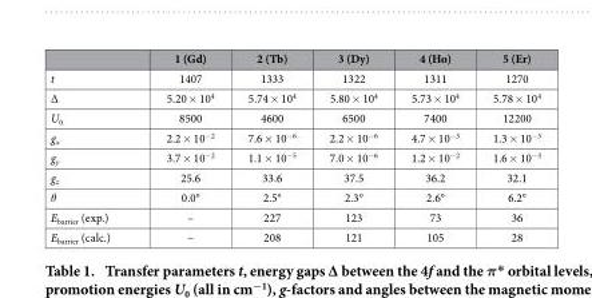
<table><thead><tr><td></td><td>1 (Gd)</td><td>2 (Tb)</td><td>3 (Dy)</td><td>4 (Ho)</td><td>5 (Er)</td></tr></thead><tbody><tr><td>t</td><td>1407</td><td>1333</td><td>1322</td><td>1311</td><td>1270</td></tr><tr><td>Δ</td><td>5.20 × 10<sup>4</sup></td><td>5.74 × 10<sup>4</sup></td><td>5.80 × 10<sup>4</sup></td><td>5.73 × 10<sup>4</sup></td><td>5.78 × 10<sup>4</sup></td></tr><tr><td>U<sub>0</sub></td><td>8500</td><td>4600</td><td>6500</td><td>7400</td><td>12200</td></tr><tr><td>g<sub>x</sub></td><td>2.2 × 10<sup>−2</sup></td><td>7.6 × 10<sup>−6</sup></td><td>2.2 × 10<sup>−6</sup></td><td>4.7 × 10<sup>−3</sup></td><td>1.3 × 10<sup>−3</sup></td></tr><tr><td>g<sub>y</sub></td><td>3.7 × 10<sup>−2</sup></td><td>1.1 × 10<sup>−5</sup></td><td>7.0 × 10<sup>−6</sup></td><td>1.2 × 10<sup>−2</sup></td><td>1.6 × 10<sup>−3</sup></td></tr><tr><td>g<sub>z</sub></td><td>25.6</td><td>33.6</td><td>37.5</td><td>36.2</td><td>32.1</td></tr><tr><td>θ</td><td>0.0°</td><td>2.5°</td><td>2.3°</td><td>2.6°</td><td>6.2°</td></tr><tr><td>E<sub>barrier</sub> (exp.)</td><td>–</td><td>227</td><td>123</td><td>73</td><td>36</td></tr><tr><td>E<sub>barrier</sub> (calc.)</td><td>–</td><td>208</td><td>121</td><td>105</td><td>28</td></tr></tbody></table>